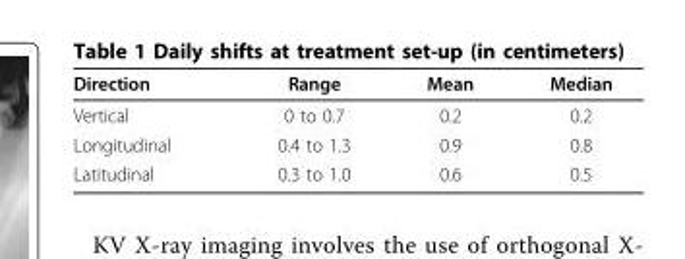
<table><thead><tr><td>Direction</td><td>Range</td><td>Mean</td><td>Median</td></tr></thead><tbody><tr><td>Vertical</td><td>0 to 0.7</td><td>0.2</td><td>0.2</td></tr><tr><td>Longitudinal</td><td>0.4 to 1.3</td><td>0.9</td><td>0.8</td></tr><tr><td>Latitudinal</td><td>0.3 to 1.0</td><td>0.6</td><td>0.5</td></tr></tbody></table>